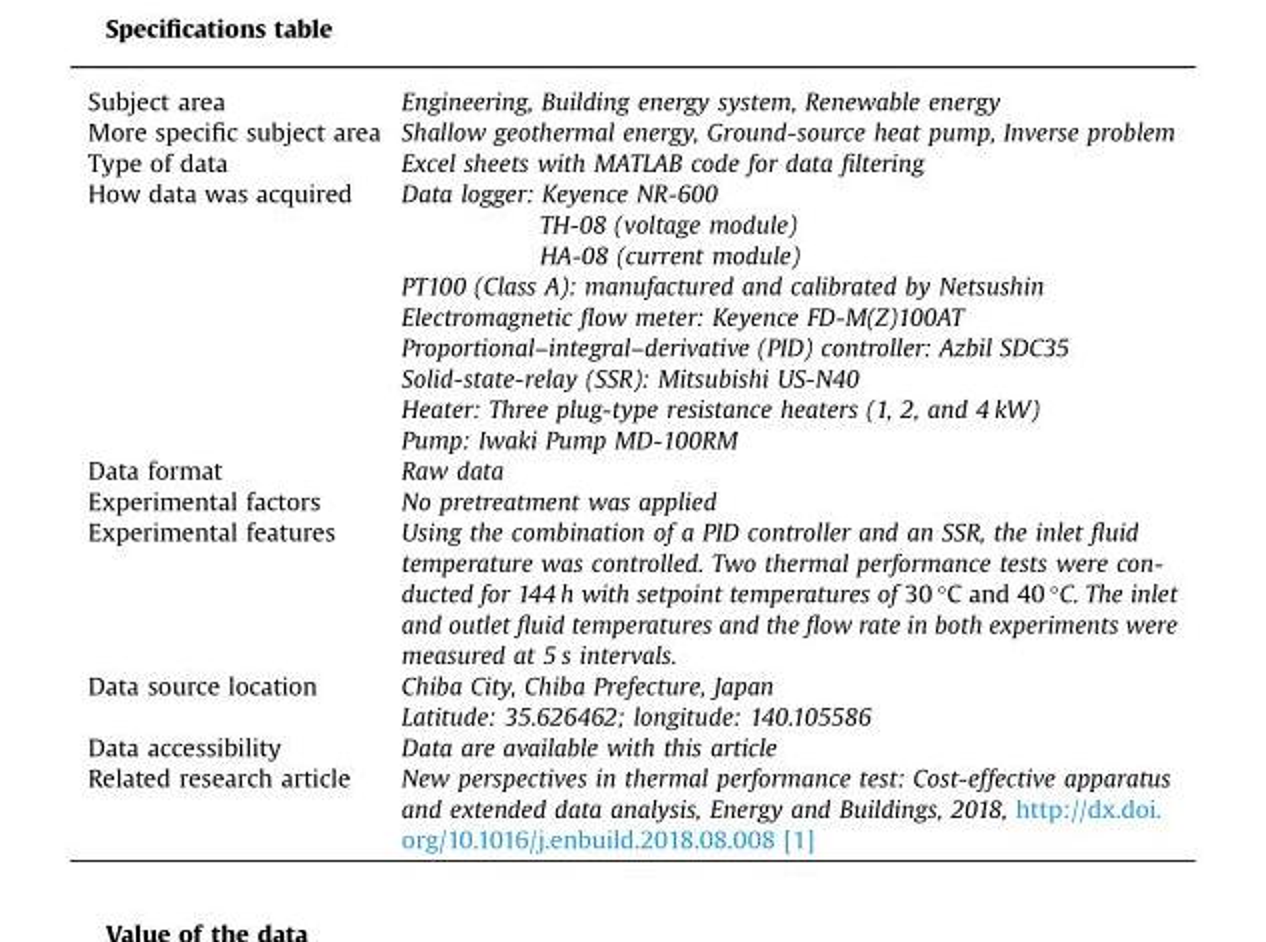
<table><tbody><tr><td>Subject area</td><td>Engineering, Building energy system, Renewable energy</td></tr><tr><td>More specific subject area</td><td>Shallow geothermal energy, Ground-source heat pump, Inverse problem</td></tr><tr><td>Type of data</td><td>Excel sheets with MATLAB code for data filtering</td></tr><tr><td rowspan="9">How data was acquired</td><td>Data logger: Keyence NR-600</td></tr><tr><td>TH-08 (voltage module)</td></tr><tr><td>HA-08 (current module)</td></tr><tr><td>PT100 (Class A): manufactured and calibrated by Netsushin</td></tr><tr><td>Electromagnetic flow meter: Keyence FD-M(Z)100AT</td></tr><tr><td>Proportional–integral–derivative (PID) controller: Azbil SDC35</td></tr><tr><td>Solid-state-relay (SSR): Mitsubishi US-N40</td></tr><tr><td>Heater: Three plug-type resistance heaters (1, 2, and 4 kW)</td></tr><tr><td>Pump: Iwaki Pump MD-100RM</td></tr><tr><td>Data format</td><td>Raw data</td></tr><tr><td>Experimental factors</td><td>No pretreatment was applied</td></tr><tr><td>Experimental features</td><td>Using the combination of a PID controller and an SSR, the inlet fluid temperature was controlled. Two thermal performance tests were con- ducted for 144 h with setpoint temperatures of 30 °C and 40 °C. The inlet and outlet fluid temperatures and the flow rate in both experiments were measured at 5 s intervals.</td></tr><tr><td rowspan="2">Data source location</td><td>Chiba City, Chiba Prefecture, Japan</td></tr><tr><td>Latitude: 35.626462; longitude: 140.105586</td></tr><tr><td>Data accessibility</td><td>Data are available with this article</td></tr><tr><td>Related research article</td><td>New perspectives in thermal performance test: Cost-effective apparatus and extended data analysis, Energy and Buildings, 2018, http://dx.doi. org/10.1016/j.enbuild.2018.08.008 [1]</td></tr></tbody></table>